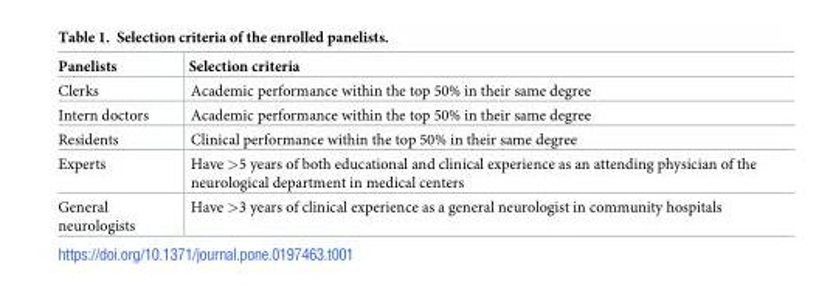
<table><thead><tr><td>Panelists</td><td>Selection criteria</td></tr></thead><tbody><tr><td>Clerks</td><td>Academic performance within the top 50% in their same degree</td></tr><tr><td>Intern doctors</td><td>Academic performance within the top 50% in their same degree</td></tr><tr><td>Residents</td><td>Clinical performance within the top 50% in their same degree</td></tr><tr><td>Experts</td><td>Have &gt;5 years of both educational and clinical experience as an attending physician of the neurological department in medical centers</td></tr><tr><td>General neurologists</td><td>Have &gt;3 years of clinical experience as a general neurologist in community hospitals</td></tr></tbody></table>